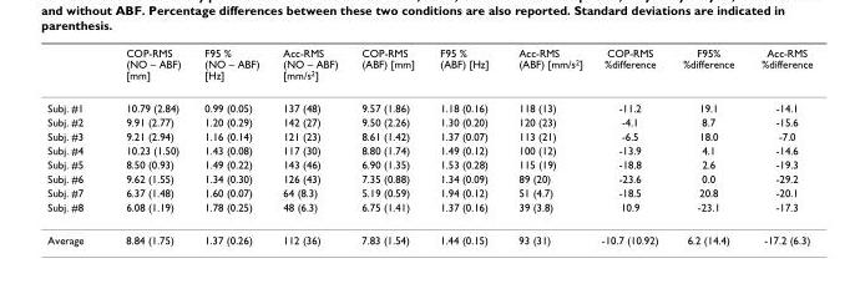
<table><thead><tr><td></td><td>COP-RMS (NO – ABF) [mm]</td><td>F95 % (NO – ABF) [Hz]</td><td>Acc-RMS (NO – ABF) [mm/s<sup>2</sup>]</td><td>COP-RMS (ABF) [mm]</td><td>F95 % (ABF) [Hz]</td><td>Acc-RMS (ABF) [mm/s<sup>2</sup>]</td><td>COP-RMS %difference</td><td>F95% %difference</td><td>Acc-RMS %difference</td></tr></thead><tbody><tr><td>Subj. #1</td><td>10.79 (2.84)</td><td>0.99 (0.05)</td><td>137 (48)</td><td>9.57 (1.86)</td><td>1.18 (0.16)</td><td>118 (13)</td><td>-11.2</td><td>19.1</td><td>-14.1</td></tr><tr><td>Subj. #2</td><td>9.91 (2.77)</td><td>1.20 (0.29)</td><td>142 (27)</td><td>9.50 (2.26)</td><td>1.30 (0.20)</td><td>120 (23)</td><td>-4.1</td><td>8.7</td><td>-15.6</td></tr><tr><td>Subj. #3</td><td>9.21 (2.94)</td><td>1.16 (0.14)</td><td>121 (23)</td><td>8.61 (1.42)</td><td>1.37 (0.07)</td><td>113 (21)</td><td>-6.5</td><td>18.0</td><td>-7.0</td></tr><tr><td>Subj. #4</td><td>10.23 (1.50)</td><td>1.43 (0.08)</td><td>117 (30)</td><td>8.80 (1.74)</td><td>1.49 (0.12)</td><td>100 (12)</td><td>-13.9</td><td>4.1</td><td>-14.6</td></tr><tr><td>Subj. #5</td><td>8.50 (0.93)</td><td>1.49 (0.22)</td><td>143 (46)</td><td>6.90 (1.35)</td><td>1.53 (0.28)</td><td>115 (19)</td><td>-18.8</td><td>2.6</td><td>-19.3</td></tr><tr><td>Subj. #6</td><td>9.62 (1.55)</td><td>1.34 (0.30)</td><td>126 (43)</td><td>7.35 (0.88)</td><td>1.34 (0.09)</td><td>89 (20)</td><td>-23.6</td><td>0.0</td><td>-29.2</td></tr><tr><td>Subj. #7</td><td>6.37 (1.48)</td><td>1.60 (0.07)</td><td>64 (8.3)</td><td>5.19 (0.59)</td><td>1.94 (0.12)</td><td>51 (4.7)</td><td>-18.5</td><td>20.8</td><td>-20.1</td></tr><tr><td>Subj. #8</td><td>6.08 (1.19)</td><td>1.78 (0.25)</td><td>48 (6.3)</td><td>6.75 (1.41)</td><td>1.37 (0.16)</td><td>39 (3.8)</td><td>10.9</td><td>-23.1</td><td>-17.3</td></tr><tr><td>Average</td><td>8.84 (1.75)</td><td>1.37 (0.26)</td><td>112 (36)</td><td>7.83 (1.54)</td><td>1.44 (0.15)</td><td>93 (31)</td><td>-10.7 (10.92)</td><td>6.2 (14.4)</td><td>-17.2 (6.3)</td></tr></tbody></table>